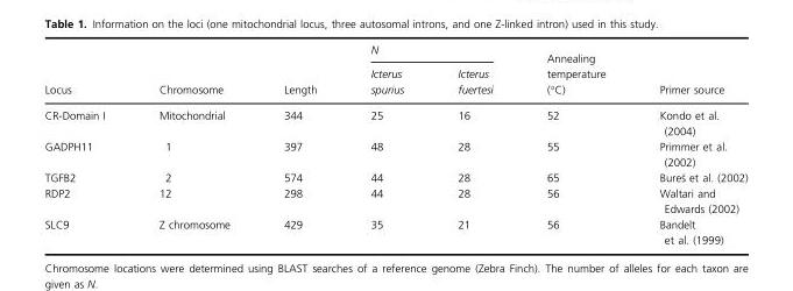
<table><thead><tr><td rowspan="2">Locus</td><td rowspan="2">Chromosome</td><td rowspan="2">Length</td><td colspan="2">N</td><td rowspan="2">Annealing temperature (°C)</td><td rowspan="2">Primer source</td></tr><tr><td>Icterus spurius</td><td>Icterus fuertesi</td></tr></thead><tbody><tr><td>CR-Domain I</td><td>Mitochondrial</td><td>344</td><td>25</td><td>16</td><td>52</td><td>Kondo et al. (2004)</td></tr><tr><td>GADPH11</td><td>1</td><td>397</td><td>48</td><td>28</td><td>55</td><td>Primmer et al. (2002)</td></tr><tr><td>TGFB2</td><td>2</td><td>574</td><td>44</td><td>28</td><td>65</td><td>Bure�s et al. (2002)</td></tr><tr><td>RDP2</td><td>12</td><td>298</td><td>44</td><td>28</td><td>56</td><td>Waltari and Edwards (2002)</td></tr><tr><td>SLC9</td><td>Z chromosome</td><td>429</td><td>35</td><td>21</td><td>56</td><td>Bandelt et al. (1999)</td></tr></tbody></table>